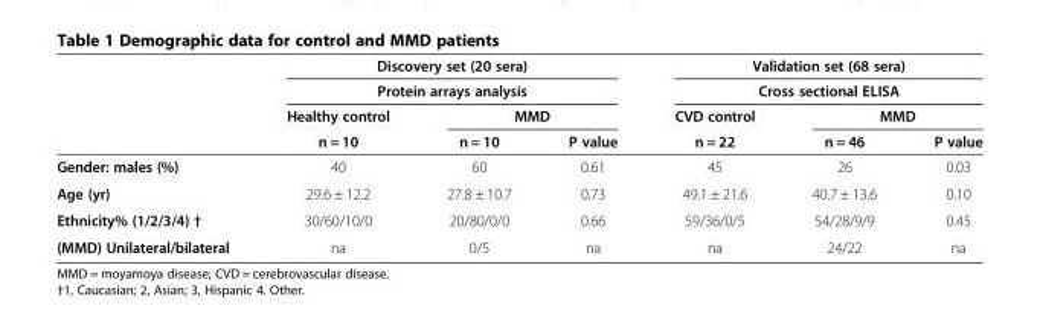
<table><thead><tr><td rowspan="4"></td><td rowspan="2" colspan="3">Discovery set (20 sera) Protein arrays analysis</td><td rowspan="2" colspan="3">Validation set (68 sera) Cross sectional ELISA</td></tr><tr></tr><tr><td rowspan="2">Healthy control n = 10</td><td colspan="2">MMD</td><td rowspan="2">CVD control n = 22</td><td colspan="2">MMD</td></tr><tr><td>n = 10</td><td>P value</td><td>n = 46</td><td>P value</td></tr></thead><tbody><tr><td>Gender: males (%)</td><td>40</td><td>60</td><td>0.61</td><td>45</td><td>26</td><td>0.03</td></tr><tr><td>Age (yr)</td><td>29.6 ± 12.2</td><td>27.8 ± 10.7</td><td>0.73</td><td>49.1 ± 21.6</td><td>40.7 ± 13.6</td><td>0.10</td></tr><tr><td>Ethnicity% (1/2/3/4) †</td><td>30/60/10/0</td><td>20/80/0/0</td><td>0.66</td><td>59/36/0/5</td><td>54/28/9/9</td><td>0.45</td></tr><tr><td>(MMD) Unilateral/bilateral</td><td>na</td><td>0/5</td><td>na</td><td>na</td><td>24/22</td><td>na</td></tr></tbody></table>